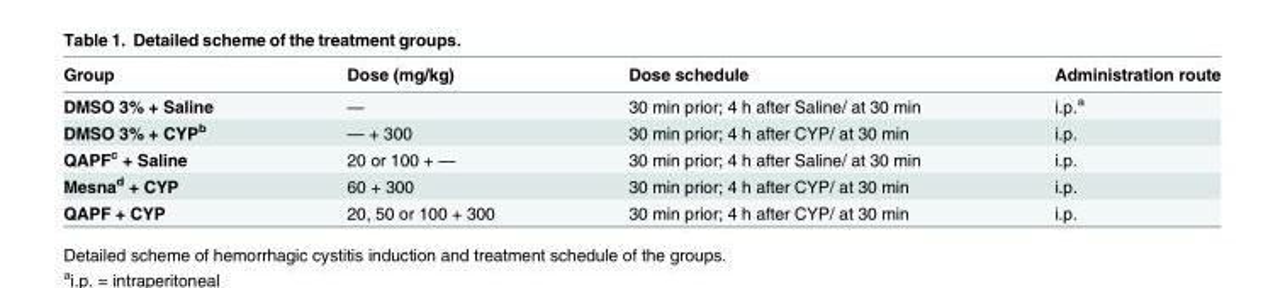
<table><thead><tr><td>Group</td><td>Dose (mg/kg)</td><td>Dose schedule</td><td>Administration route</td></tr></thead><tbody><tr><td>DMSO 3% + Saline</td><td>—</td><td>30 min prior; 4 h after Saline/ at 30 min</td><td>i.p.<sup>a</sup></td></tr><tr><td>DMSO 3% + CYP<sup>b</sup></td><td>— + 300</td><td>30 min prior; 4 h after CYP/ at 30 min</td><td>i.p.</td></tr><tr><td>QAPF<sup>c</sup> + Saline</td><td>20 or 100 + —</td><td>30 min prior; 4 h after Saline/ at 30 min</td><td>i.p.</td></tr><tr><td>Mesna<sup>d</sup> + CYP</td><td>60 + 300</td><td>30 min prior; 4 h after CYP/ at 30 min</td><td>i.p.</td></tr><tr><td>QAPF + CYP</td><td>20, 50 or 100 + 300</td><td>30 min prior; 4 h after CYP/ at 30 min</td><td>i.p.</td></tr></tbody></table>